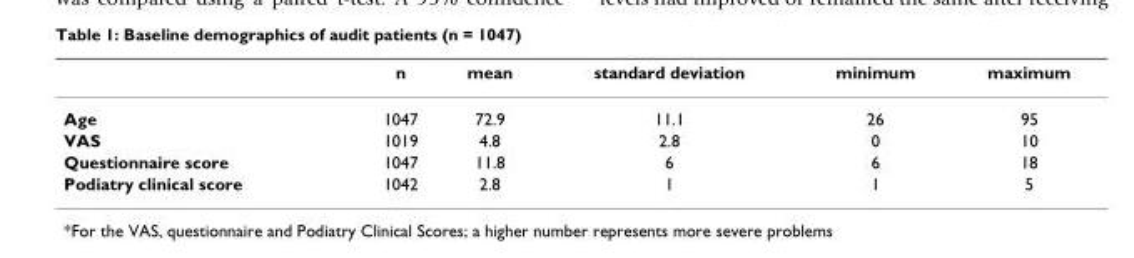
<table><thead><tr><td></td><td>n</td><td>mean</td><td>standard deviation</td><td>minimum</td><td>maximum</td></tr></thead><tbody><tr><td>Age</td><td>1047</td><td>72.9</td><td>11.1</td><td>26</td><td>95</td></tr><tr><td>VAS</td><td>1019</td><td>4.8</td><td>2.8</td><td>0</td><td>10</td></tr><tr><td>Questionnaire score</td><td>1047</td><td>11.8</td><td>6</td><td>6</td><td>18</td></tr><tr><td>Podiatry clinical score</td><td>1042</td><td>2.8</td><td>1</td><td>1</td><td>5</td></tr></tbody></table>